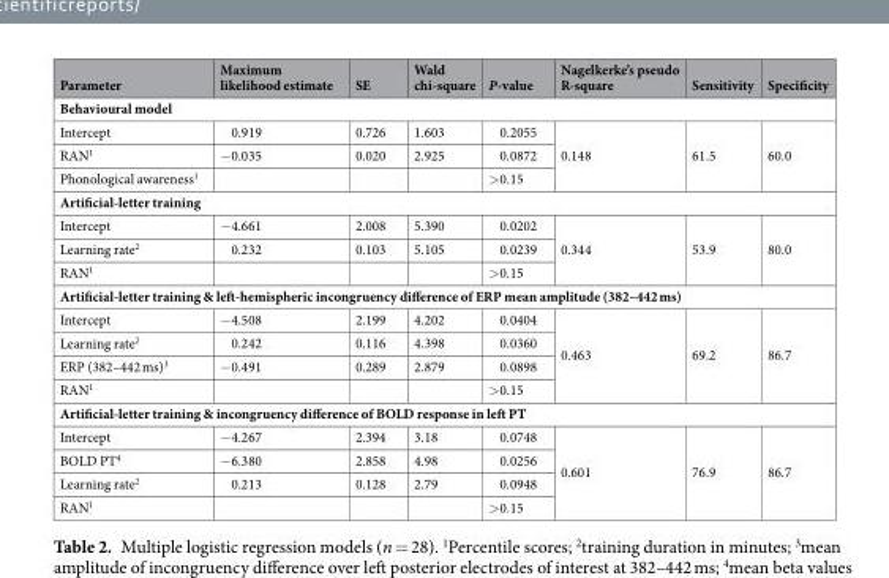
<table><thead><tr><td>Parameter</td><td>Maximum likelihood estimate</td><td>SE</td><td>Wald chi-square</td><td>P-value</td><td>Nagelkerke’s pseudo R-square</td><td>Sensitivity</td><td>Specificity</td></tr></thead><tbody><tr><td colspan="8">Behavioural model</td></tr><tr><td>Intercept</td><td>0.919</td><td>0.726</td><td>1.603</td><td>0.2055</td><td rowspan="3">0.148</td><td rowspan="3">61.5</td><td rowspan="3">60.0</td></tr><tr><td>RAN<sup>1</sup></td><td>−0.035</td><td>0.020</td><td>2.925</td><td>0.0872</td></tr><tr><td>Phonological awareness<sup>1</sup></td><td></td><td></td><td></td><td>&gt;0.15</td></tr><tr><td colspan="8">Artificial-letter training</td></tr><tr><td>Intercept</td><td>−4.661</td><td>2.008</td><td>5.390</td><td>0.0202</td><td rowspan="3">0.344</td><td rowspan="3">53.9</td><td rowspan="3">80.0</td></tr><tr><td>Learning rate<sup>2</sup></td><td>0.232</td><td>0.103</td><td>5.105</td><td>0.0239</td></tr><tr><td>RAN<sup>1</sup></td><td></td><td></td><td></td><td>&gt;0.15</td></tr><tr><td colspan="8">Artificial-letter training &amp; left-hemispheric incongruency difference of ERP mean amplitude (382–442 ms)</td></tr><tr><td>Intercept</td><td>−4.508</td><td>2.199</td><td>4.202</td><td>0.0404</td><td rowspan="4">0.463</td><td rowspan="4">69.2</td><td rowspan="4">86.7</td></tr><tr><td>Learning rate<sup>2</sup></td><td>0.242</td><td>0.116</td><td>4.398</td><td>0.0360</td></tr><tr><td>ERP (382–442 ms)<sup>3</sup></td><td>−0.491</td><td>0.289</td><td>2.879</td><td>0.0898</td></tr><tr><td>RAN<sup>1</sup></td><td></td><td></td><td></td><td>&gt;0.15</td></tr><tr><td colspan="8">Artificial-letter training &amp; incongruency difference of BOLD response in left PT</td></tr><tr><td>Intercept</td><td>−4.267</td><td>2.394</td><td>3.18</td><td>0.0748</td><td rowspan="4">0.601</td><td rowspan="4">76.9</td><td rowspan="4">86.7</td></tr><tr><td>BOLD PT<sup>4</sup></td><td>−6.380</td><td>2.858</td><td>4.98</td><td>0.0256</td></tr><tr><td>Learning rate<sup>2</sup></td><td>0.213</td><td>0.128</td><td>2.79</td><td>0.0948</td></tr><tr><td>RAN<sup>1</sup></td><td></td><td></td><td></td><td>&gt;0.15</td></tr></tbody></table>